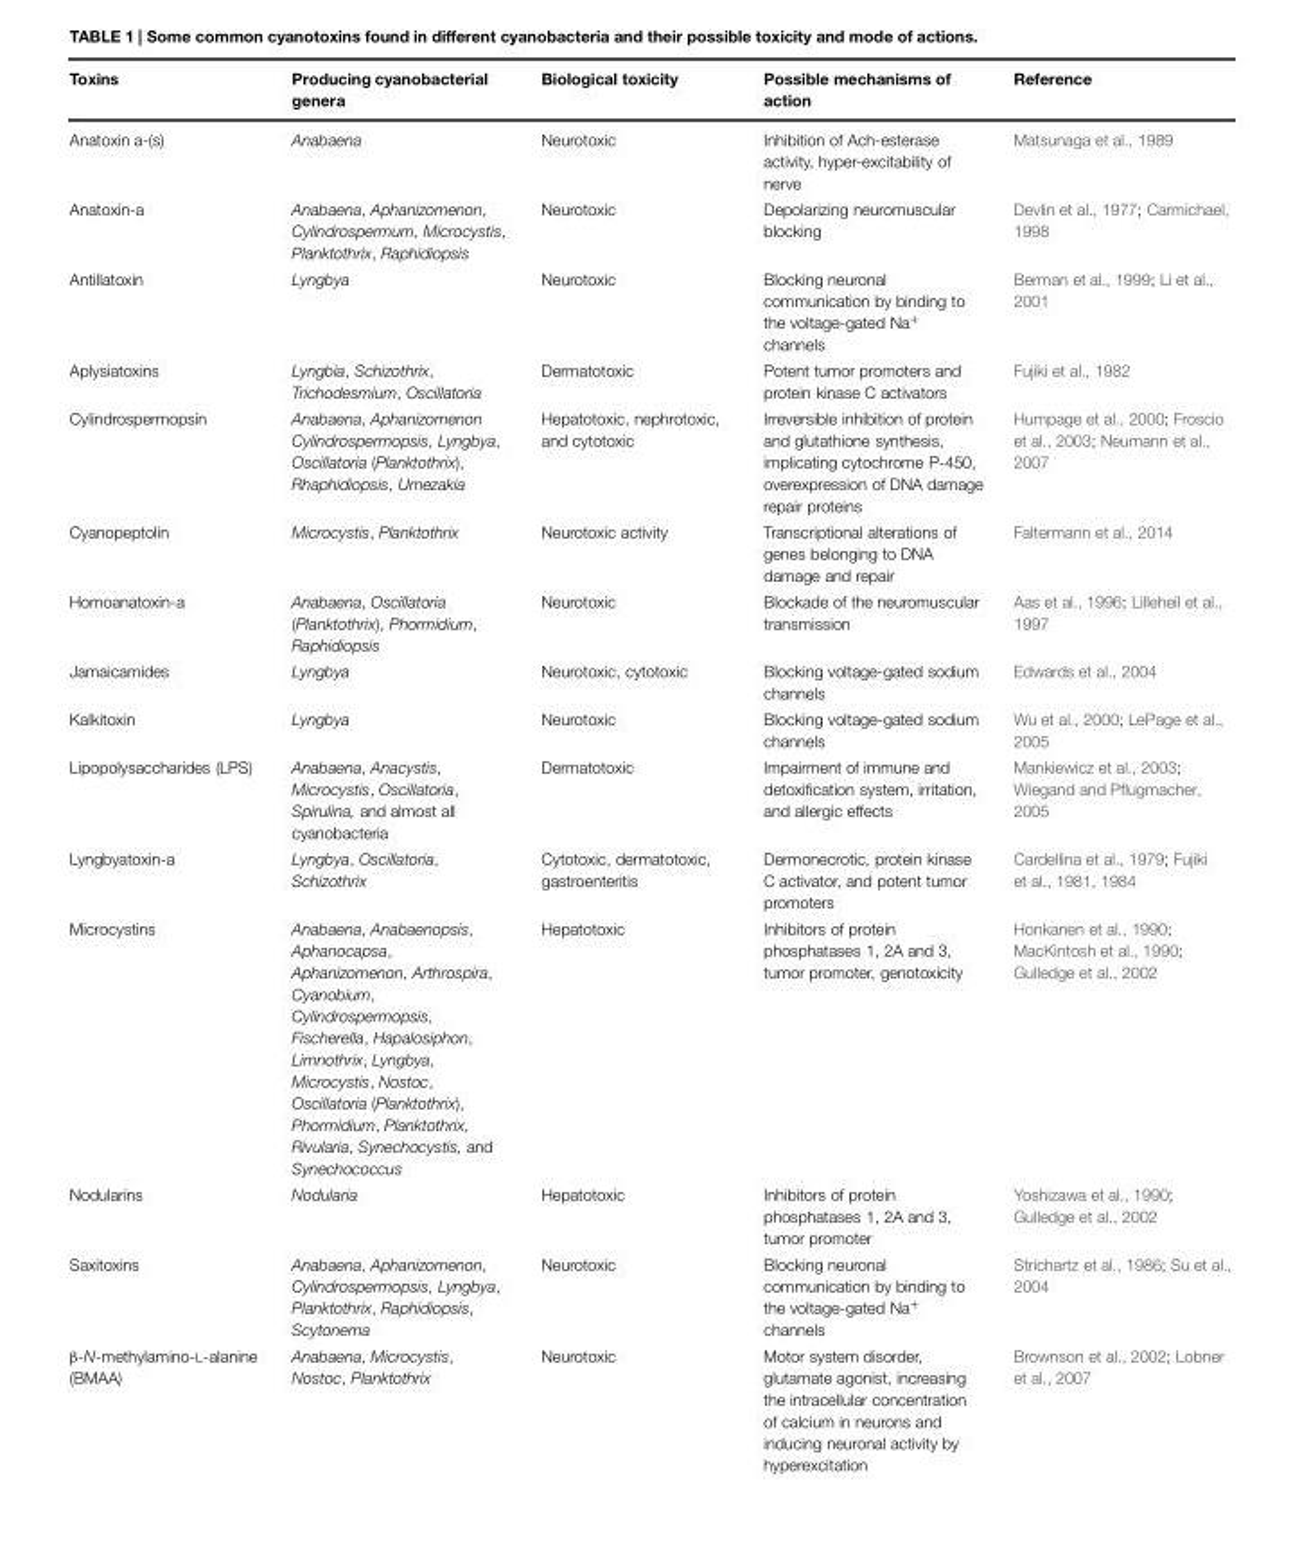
<table><thead><tr><td>Toxins</td><td>Producing cyanobacterial genera</td><td>Biological toxicity</td><td>Possible mechanisms of action</td><td>Reference</td></tr></thead><tbody><tr><td>Anatoxin a-(s)</td><td>Anabaena</td><td>Neurotoxic</td><td>Inhibition of Ach-esterase activity, hyper-excitability of nerve</td><td>Matsunaga et al., 1989</td></tr><tr><td>Anatoxin-a</td><td>Anabaena, Aphanizomenon, Cylindrospermum, Microcystis, Planktothrix, Raphidiopsis</td><td>Neurotoxic</td><td>Depolarizing neuromuscular blocking</td><td>Devlin et al., 1977; Carmichael, 1998</td></tr><tr><td>Antillatoxin</td><td>Lyngbya</td><td>Neurotoxic</td><td>Blocking neuronal communication by binding to the voltage-gated Na<sup>+</sup> channels</td><td>Berman et al., 1999; Li et al., 2001</td></tr><tr><td>Aplysiatoxins</td><td>Lyngbia, Schizothrix, Trichodesmium, Oscillatoria</td><td>Dermatotoxic</td><td>Potent tumor promoters and protein kinase C activators</td><td>Fujiki et al., 1982</td></tr><tr><td>Cylindrospermopsin</td><td>Anabaena, Aphanizomenon Cylindrospermopsis, Lyngbya, Oscillatoria (Planktothrix), Rhaphidiopsis, Umezakia</td><td>Hepatotoxic, nephrotoxic, and cytotoxic</td><td>Irreversible inhibition of protein and glutathione synthesis, implicating cytochrome P-450, overexpression of DNA damage repair proteins</td><td>Humpage et al., 2000; Froscio et al., 2003; Neumann et al., 2007</td></tr><tr><td>Cyanopeptolin</td><td>Microcystis, Planktothrix</td><td>Neurotoxic activity</td><td>Transcriptional alterations of genes belonging to DNA damage and repair</td><td>Faltermann et al., 2014</td></tr><tr><td>Homoanatoxin-a</td><td>Anabaena, Oscillatoria (Planktothrix), Phormidium, Raphidiopsis</td><td>Neurotoxic</td><td>Blockade of the neuromuscular transmission</td><td>Aas et al., 1996; Lilleheil et al., 1997</td></tr><tr><td>Jamaicamides</td><td>Lyngbya</td><td>Neurotoxic, cytotoxic</td><td>Blocking voltage-gated sodium channels</td><td>Edwards et al., 2004</td></tr><tr><td>Kalkitoxin</td><td>Lyngbya</td><td>Neurotoxic</td><td>Blocking voltage-gated sodium channels</td><td>Wu et al., 2000; LePage et al., 2005</td></tr><tr><td>Lipopolysaccharides (LPS)</td><td>Anabaena, Anacystis, Microcystis, Oscillatoria, Spirulina, and almost all cyanobacteria</td><td>Dermatotoxic</td><td>Impairment of immune and detoxification system, irritation, and allergic effects</td><td>Mankiewicz et al., 2003; Wiegand and Pflugmacher, 2005</td></tr><tr><td>Lyngbyatoxin-a</td><td>Lyngbya, Oscillatoria, Schizothrix</td><td>Cytotoxic, dermatotoxic, gastroenteritis</td><td>Dermonecrotic, protein kinase C activator, and potent tumor promoters</td><td>Cardellina et al., 1979; Fujiki et al., 1981, 1984</td></tr><tr><td>Microcystins</td><td>Anabaena, Anabaenopsis, Aphanocapsa, Aphanizomenon, Arthrospira, Cyanobium, Cylindrospermopsis, Fischerella, Hapalosiphon, Limnothrix, Lyngbya, Microcystis, Nostoc, Oscillatoria (Planktothrix), Phormidium, Planktothrix, Rivularia, Synechocystis, and Synechococcus</td><td>Hepatotoxic</td><td>Inhibitors of protein phosphatases 1, 2A and 3, tumor promoter, genotoxicity</td><td>Honkanen et al., 1990; MacKintosh et al., 1990; Gulledge et al., 2002</td></tr><tr><td>Nodularins</td><td>Nodularia</td><td>Hepatotoxic</td><td>Inhibitors of protein phosphatases 1, 2A and 3, tumor promoter</td><td>Yoshizawa et al., 1990; Gulledge et al., 2002</td></tr><tr><td>Saxitoxins</td><td>Anabaena, Aphanizomenon, Cylindrospermopsis, Lyngbya, Planktothrix, Raphidiopsis, Scytonema</td><td>Neurotoxic</td><td>Blocking neuronal communication by binding to the voltage-gated Na<sup>+</sup> channels</td><td>Strichartz et al., 1986; Su et al., 2004</td></tr><tr><td>β-N-methylamino-L-alanine (BMAA)</td><td>Anabaena, Microcystis, Nostoc, Planktothrix</td><td>Neurotoxic</td><td>Motor system disorder, glutamate agonist, increasing the intracellular concentration of calcium in neurons and inducing neuronal activity by hyperexcitation</td><td>Brownson et al., 2002; Lobner et al., 2007</td></tr></tbody></table>